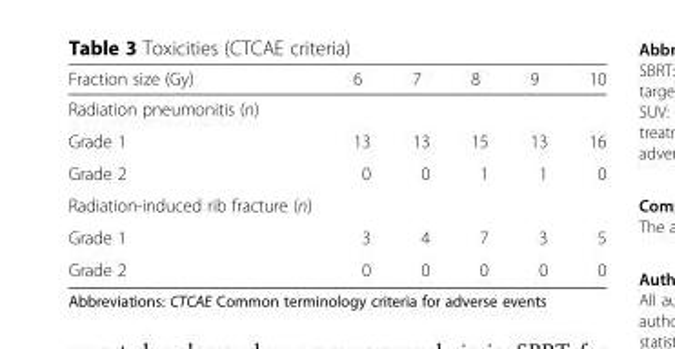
<table><thead><tr><td>Fraction size (Gy)</td><td>6</td><td>7</td><td>8</td><td>9</td><td>10</td></tr></thead><tbody><tr><td colspan="6">Radiation pneumonitis (n)</td></tr><tr><td>Grade 1</td><td>13</td><td>13</td><td>15</td><td>13</td><td>16</td></tr><tr><td>Grade 2</td><td>0</td><td>0</td><td>1</td><td>1</td><td>0</td></tr><tr><td colspan="6">Radiation-induced rib fracture (n)</td></tr><tr><td>Grade 1</td><td>3</td><td>4</td><td>7</td><td>3</td><td>5</td></tr><tr><td>Grade 2</td><td>0</td><td>0</td><td>0</td><td>0</td><td>0</td></tr></tbody></table>